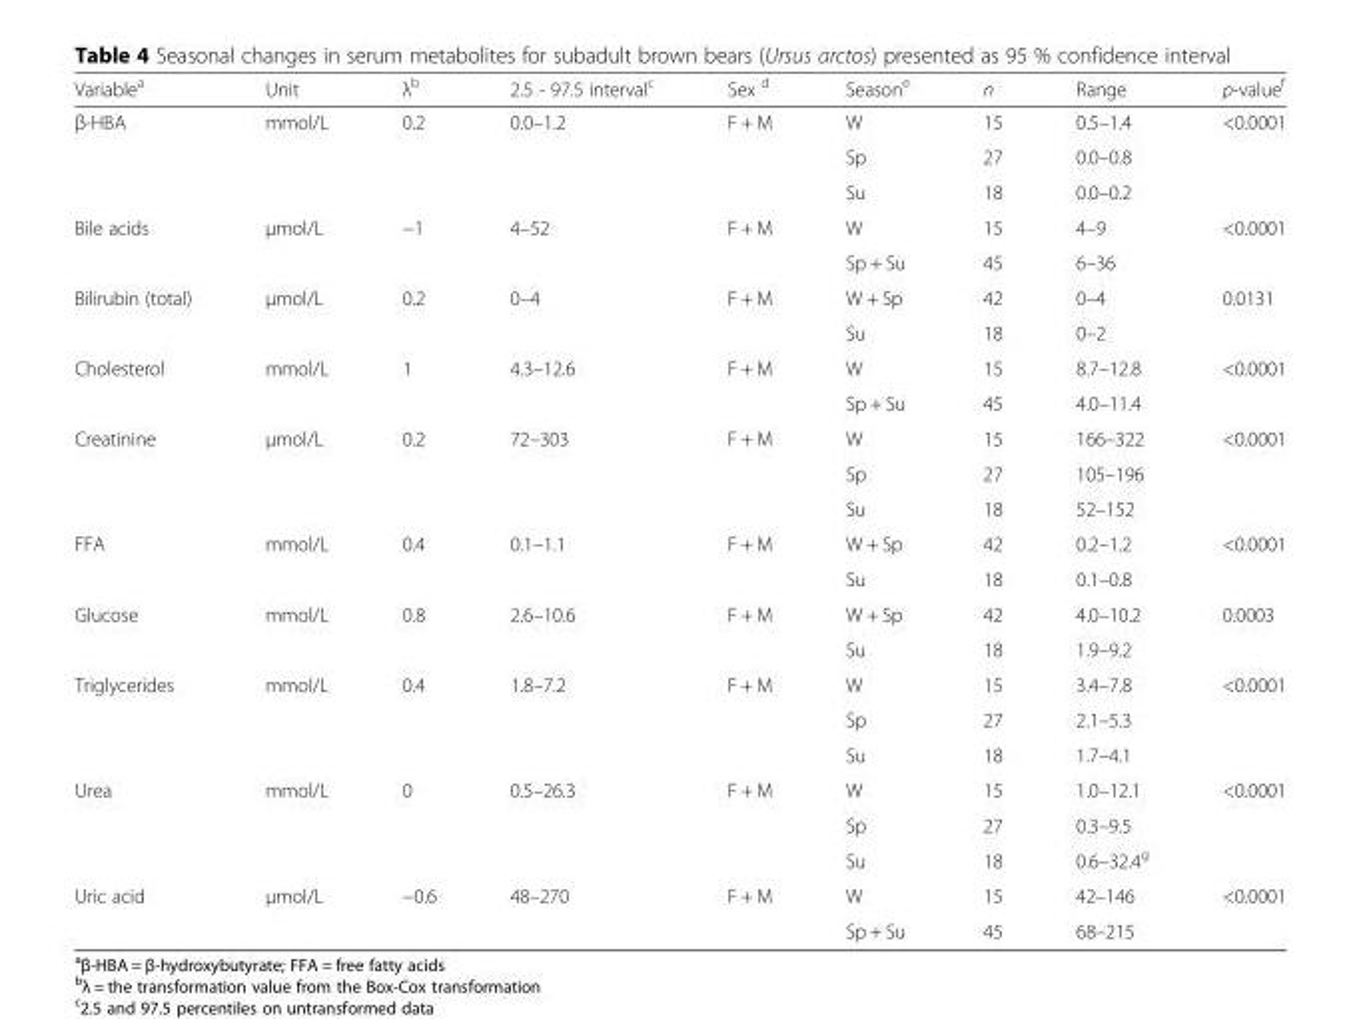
<table><thead><tr><td>Variable<sup>a</sup></td><td>Unit</td><td>λ<sup>b</sup></td><td>2.5 - 97.5 interval<sup>c</sup></td><td>Sex <sup>d</sup></td><td>Season<sup>e</sup></td><td>n</td><td>Range</td><td>p-value<sup>f</sup></td></tr></thead><tbody><tr><td rowspan="3">β-HBA</td><td rowspan="3">mmol/L</td><td rowspan="3">0.2</td><td rowspan="3">0.0–1.2</td><td rowspan="3">F + M</td><td>W</td><td>15</td><td>0.5–1.4</td><td rowspan="3">&lt;0.0001</td></tr><tr><td>Sp</td><td>27</td><td>0.0–0.8</td></tr><tr><td>Su</td><td>18</td><td>0.0–0.2</td></tr><tr><td rowspan="2">Bile acids</td><td rowspan="2">μmol/L</td><td rowspan="2">−1</td><td rowspan="2">4–52</td><td rowspan="2">F + M</td><td>W</td><td>15</td><td>4–9</td><td rowspan="2">&lt;0.0001</td></tr><tr><td>Sp + Su</td><td>45</td><td>6–36</td></tr><tr><td rowspan="2">Bilirubin (total)</td><td rowspan="2">μmol/L</td><td rowspan="2">0.2</td><td rowspan="2">0–4</td><td rowspan="2">F + M</td><td>W + Sp</td><td>42</td><td>0–4</td><td rowspan="2">0.0131</td></tr><tr><td>Su</td><td>18</td><td>0–2</td></tr><tr><td rowspan="2">Cholesterol</td><td rowspan="2">mmol/L</td><td rowspan="2">1</td><td rowspan="2">4.3–12.6</td><td rowspan="2">F + M</td><td>W</td><td>15</td><td>8.7–12.8</td><td rowspan="2">&lt;0.0001</td></tr><tr><td>Sp + Su</td><td>45</td><td>4.0–11.4</td></tr><tr><td rowspan="3">Creatinine</td><td rowspan="3">μmol/L</td><td rowspan="3">0.2</td><td rowspan="3">72–303</td><td rowspan="3">F + M</td><td>W</td><td>15</td><td>166–322</td><td rowspan="3">&lt;0.0001</td></tr><tr><td>Sp</td><td>27</td><td>105–196</td></tr><tr><td>Su</td><td>18</td><td>52–152</td></tr><tr><td rowspan="2">FFA</td><td rowspan="2">mmol/L</td><td rowspan="2">0.4</td><td rowspan="2">0.1–1.1</td><td rowspan="2">F + M</td><td>W + Sp</td><td>42</td><td>0.2–1.2</td><td rowspan="2">&lt;0.0001</td></tr><tr><td>Su</td><td>18</td><td>0.1–0.8</td></tr><tr><td rowspan="2">Glucose</td><td rowspan="2">mmol/L</td><td rowspan="2">0.8</td><td rowspan="2">2.6–10.6</td><td rowspan="2">F + M</td><td>W + Sp</td><td>42</td><td>4.0–10.2</td><td rowspan="2">0.0003</td></tr><tr><td>Su</td><td>18</td><td>1.9–9.2</td></tr><tr><td rowspan="3">Triglycerides</td><td rowspan="3">mmol/L</td><td rowspan="3">0.4</td><td rowspan="3">1.8–7.2</td><td rowspan="3">F + M</td><td>W</td><td>15</td><td>3.4–7.8</td><td rowspan="3">&lt;0.0001</td></tr><tr><td>Sp</td><td>27</td><td>2.1–5.3</td></tr><tr><td>Su</td><td>18</td><td>1.7–4.1</td></tr><tr><td rowspan="3">Urea</td><td rowspan="3">mmol/L</td><td rowspan="3">0</td><td rowspan="3">0.5–26.3</td><td rowspan="3">F + M</td><td>W</td><td>15</td><td>1.0–12.1</td><td rowspan="3">&lt;0.0001</td></tr><tr><td>Sp</td><td>27</td><td>0.3–9.5</td></tr><tr><td>Su</td><td>18</td><td>0.6–32.4<sup>g</sup></td></tr><tr><td rowspan="2">Uric acid</td><td rowspan="2">μmol/L</td><td rowspan="2">−0.6</td><td rowspan="2">48–270</td><td rowspan="2">F + M</td><td>W</td><td>15</td><td>42–146</td><td rowspan="2">&lt;0.0001</td></tr><tr><td>Sp + Su</td><td>45</td><td>68–215</td></tr></tbody></table>